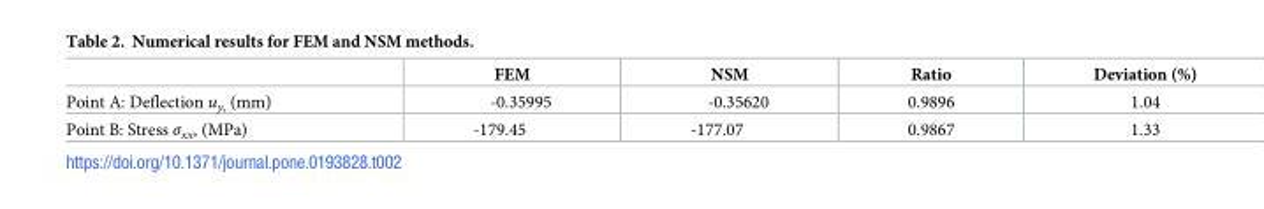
<table><thead><tr><td></td><td>FEM</td><td>NSM</td><td>Ratio</td><td>Deviation (%)</td></tr></thead><tbody><tr><td>Point A: Deflection u<sub>y,</sub> (mm)</td><td>-0.35995</td><td>-0.35620</td><td>0.9896</td><td>1.04</td></tr><tr><td>Point B: Stress σ<sub>xx</sub>, (MPa)</td><td>-179.45</td><td>-177.07</td><td>0.9867</td><td>1.33</td></tr></tbody></table>